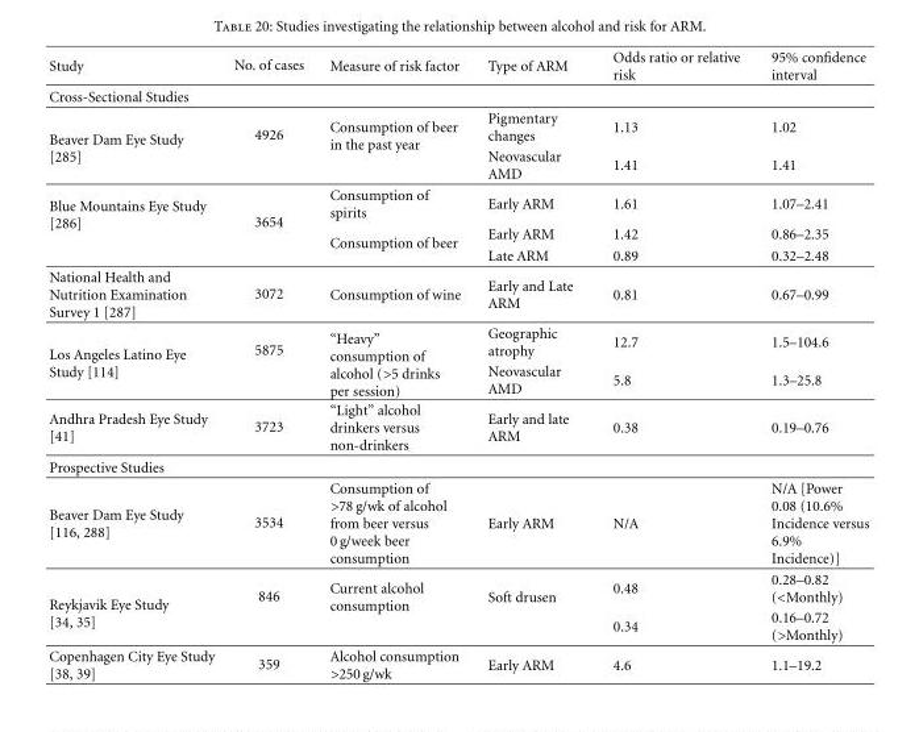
<table><thead><tr><td>Study</td><td>No. of cases</td><td>Measure of risk factor</td><td>Type of ARM</td><td>Odds ratio or relative risk</td><td>95% confidence interval</td></tr></thead><tbody><tr><td colspan="6">Cross-Sectional Studies</td></tr><tr><td rowspan="2">Beaver Dam Eye Study [285]</td><td rowspan="2">4926</td><td rowspan="2">Consumption of beer in the past year</td><td>Pigmentary changes</td><td>1.13</td><td>1.02</td></tr><tr><td>Neovascular AMD</td><td>1.41</td><td>1.41</td></tr><tr><td rowspan="3">Blue Mountains Eye Study [286]</td><td rowspan="3">3654</td><td>Consumption of spirits</td><td>Early ARM</td><td>1.61</td><td>1.07–2.41</td></tr><tr><td rowspan="2">Consumption of beer</td><td>Early ARM</td><td>1.42</td><td>0.86–2.35</td></tr><tr><td>Late ARM</td><td>0.89</td><td>0.32–2.48</td></tr><tr><td>National Health and Nutrition Examination Survey 1 [287]</td><td>3072</td><td>Consumption of wine</td><td>Early and Late ARM</td><td>0.81</td><td>0.67–0.99</td></tr><tr><td rowspan="2">Los Angeles Latino Eye Study [114]</td><td rowspan="2">5875</td><td rowspan="2">“Heavy” consumption of alcohol (&gt;5 drinks per session)</td><td>Geographic atrophy</td><td>12.7</td><td>1.5–104.6</td></tr><tr><td>Neovascular AMD</td><td>5.8</td><td>1.3–25.8</td></tr><tr><td>Andhra Pradesh Eye Study [41]</td><td>3723</td><td>“Light” alcohol drinkers versus non-drinkers</td><td>Early and late ARM</td><td>0.38</td><td>0.19–0.76</td></tr><tr><td colspan="6">Prospective Studies</td></tr><tr><td>Beaver Dam Eye Study [116, 288]</td><td>3534</td><td>Consumption of &gt;78 g/wk of alcohol from beer versus 0 g/week beer consumption</td><td>Early ARM</td><td>N/A</td><td>N/A [Power 0.08 (10.6% Incidence versus 6.9% Incidence)]</td></tr><tr><td rowspan="2">Reykjavik Eye Study [34, 35]</td><td rowspan="2">846</td><td rowspan="2">Current alcohol consumption</td><td rowspan="2">Soft drusen</td><td>0.48</td><td>0.28–0.82 (&lt;Monthly)</td></tr><tr><td>0.34</td><td>0.16–0.72 (&gt;Monthly)</td></tr><tr><td>Copenhagen City Eye Study [38, 39]</td><td>359</td><td>Alcohol consumption &gt;250 g/wk</td><td>Early ARM</td><td>4.6</td><td>1.1–19.2</td></tr></tbody></table>